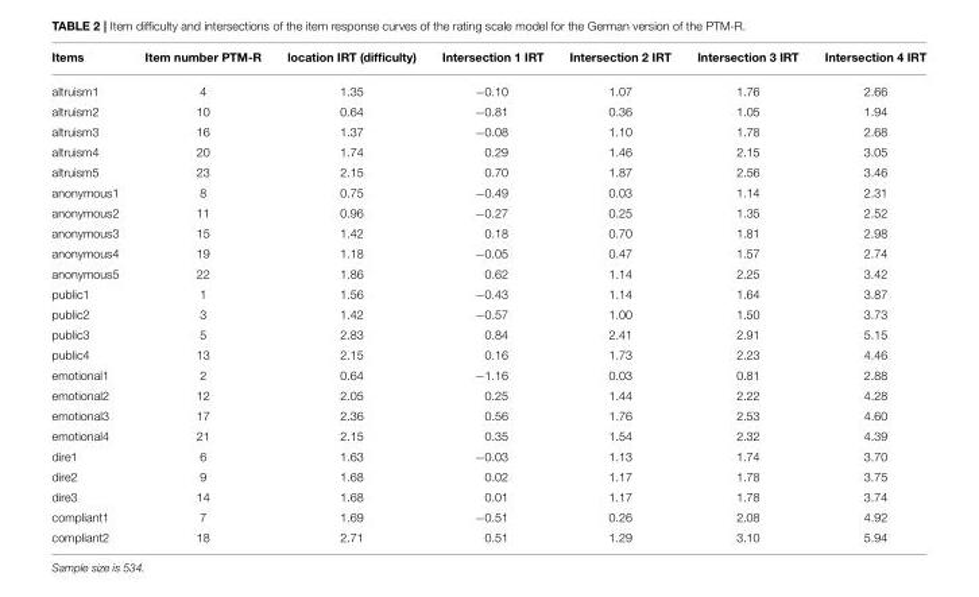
<table><thead><tr><td>Items</td><td>Item number PTM-R</td><td>location IRT (difficulty)</td><td>Intersection 1 IRT</td><td>Intersection 2 IRT</td><td>Intersection 3 IRT</td><td>Intersection 4 IRT</td></tr></thead><tbody><tr><td>altruism1</td><td>4</td><td>1.35</td><td>−0.10</td><td>1.07</td><td>1.76</td><td>2.66</td></tr><tr><td>altruism2</td><td>10</td><td>0.64</td><td>−0.81</td><td>0.36</td><td>1.05</td><td>1.94</td></tr><tr><td>altruism3</td><td>16</td><td>1.37</td><td>−0.08</td><td>1.10</td><td>1.78</td><td>2.68</td></tr><tr><td>altruism4</td><td>20</td><td>1.74</td><td>0.29</td><td>1.46</td><td>2.15</td><td>3.05</td></tr><tr><td>altruism5</td><td>23</td><td>2.15</td><td>0.70</td><td>1.87</td><td>2.56</td><td>3.46</td></tr><tr><td>anonymous1</td><td>8</td><td>0.75</td><td>−0.49</td><td>0.03</td><td>1.14</td><td>2.31</td></tr><tr><td>anonymous2</td><td>11</td><td>0.96</td><td>−0.27</td><td>0.25</td><td>1.35</td><td>2.52</td></tr><tr><td>anonymous3</td><td>15</td><td>1.42</td><td>0.18</td><td>0.70</td><td>1.81</td><td>2.98</td></tr><tr><td>anonymous4</td><td>19</td><td>1.18</td><td>−0.05</td><td>0.47</td><td>1.57</td><td>2.74</td></tr><tr><td>anonymous5</td><td>22</td><td>1.86</td><td>0.62</td><td>1.14</td><td>2.25</td><td>3.42</td></tr><tr><td>public1</td><td>1</td><td>1.56</td><td>−0.43</td><td>1.14</td><td>1.64</td><td>3.87</td></tr><tr><td>public2</td><td>3</td><td>1.42</td><td>−0.57</td><td>1.00</td><td>1.50</td><td>3.73</td></tr><tr><td>public3</td><td>5</td><td>2.83</td><td>0.84</td><td>2.41</td><td>2.91</td><td>5.15</td></tr><tr><td>public4</td><td>13</td><td>2.15</td><td>0.16</td><td>1.73</td><td>2.23</td><td>4.46</td></tr><tr><td>emotional1</td><td>2</td><td>0.64</td><td>−1.16</td><td>0.03</td><td>0.81</td><td>2.88</td></tr><tr><td>emotional2</td><td>12</td><td>2.05</td><td>0.25</td><td>1.44</td><td>2.22</td><td>4.28</td></tr><tr><td>emotional3</td><td>17</td><td>2.36</td><td>0.56</td><td>1.76</td><td>2.53</td><td>4.60</td></tr><tr><td>emotional4</td><td>21</td><td>2.15</td><td>0.35</td><td>1.54</td><td>2.32</td><td>4.39</td></tr><tr><td>dire1</td><td>6</td><td>1.63</td><td>−0.03</td><td>1.13</td><td>1.74</td><td>3.70</td></tr><tr><td>dire2</td><td>9</td><td>1.68</td><td>0.02</td><td>1.17</td><td>1.78</td><td>3.75</td></tr><tr><td>dire3</td><td>14</td><td>1.68</td><td>0.01</td><td>1.17</td><td>1.78</td><td>3.74</td></tr><tr><td>compliant1</td><td>7</td><td>1.69</td><td>−0.51</td><td>0.26</td><td>2.08</td><td>4.92</td></tr><tr><td>compliant2</td><td>18</td><td>2.71</td><td>0.51</td><td>1.29</td><td>3.10</td><td>5.94</td></tr></tbody></table>